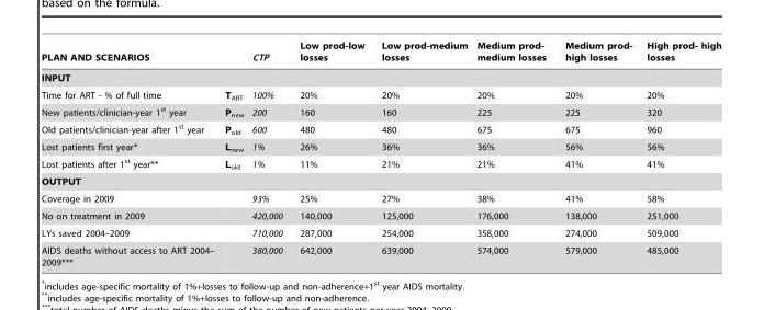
<table><thead><tr><td colspan="2">PLAN AND SCENARIOS</td><td>CTP</td><td>Low prod-low losses</td><td>Low prod-medium losses</td><td>Medium prod- medium losses</td><td>Medium prod- high losses</td><td>High prod- high losses</td></tr><tr><td colspan="8">INPUT</td></tr><tr><td>Time for ART - % of full time</td><td>T<sub>ART</sub></td><td>100%</td><td>20%</td><td>20%</td><td>20%</td><td>20%</td><td>20%</td></tr></thead><tbody><tr><td>New patients/clinician-year 1<sup>st</sup> year</td><td>P<sub>new</sub></td><td>200</td><td>160</td><td>160</td><td>225</td><td>225</td><td>320</td></tr><tr><td>Old patients/clinician-year after 1<sup>st</sup> year</td><td>P<sub>old</sub></td><td>600</td><td>480</td><td>480</td><td>675</td><td>675</td><td>960</td></tr><tr><td>Lost patients first year*</td><td>L<sub>new</sub></td><td>1%</td><td>26%</td><td>36%</td><td>36%</td><td>56%</td><td>56%</td></tr><tr><td>Lost patients after 1<sup>st</sup> year**</td><td>L<sub>old</sub></td><td>1%</td><td>11%</td><td>21%</td><td>21%</td><td>41%</td><td>41%</td></tr><tr><td colspan="8">OUTPUT</td></tr><tr><td>Coverage in 2009</td><td></td><td>93%</td><td>25%</td><td>27%</td><td>38%</td><td>41%</td><td>58%</td></tr><tr><td>No on treatment in 2009</td><td></td><td>420,000</td><td>140,000</td><td>125,000</td><td>176,000</td><td>138,000</td><td>251,000</td></tr><tr><td>LYs saved 2004–2009</td><td></td><td>710,000</td><td>287,000</td><td>254,000</td><td>358,000</td><td>274,000</td><td>509,000</td></tr><tr><td>AIDS deaths without access to ART 2004– 2009***</td><td></td><td>380,000</td><td>642,000</td><td>639,000</td><td>574,000</td><td>579,000</td><td>485,000</td></tr></tbody></table>